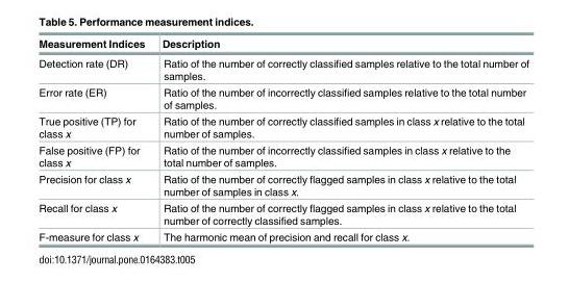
<table><thead><tr><td>Measurement Indices</td><td>Description</td></tr></thead><tbody><tr><td>Detection rate (DR)</td><td>Ratio of the number of correctly classified samples relative to the total number of samples.</td></tr><tr><td>Error rate (ER)</td><td>Ratio of the number of incorrectly classified samples relative to the total number of samples.</td></tr><tr><td>True positive (TP) for class x</td><td>Ratio of the number of correctly classified samples in class x relative to the total number of samples.</td></tr><tr><td>False positive (FP) for class x</td><td>Ratio of the number of incorrectly classified samples in class x relative to the total number of samples.</td></tr><tr><td>Precision for class x</td><td>Ratio of the number of correctly flagged samples in class x relative to the total number of samples in class x.</td></tr><tr><td>Recall for class x</td><td>Ratio of the number of correctly flagged samples in class x relative to the total number of correctly classified samples.</td></tr><tr><td>F-measure for class x</td><td>The harmonic mean of precision and recall for class x.</td></tr></tbody></table>